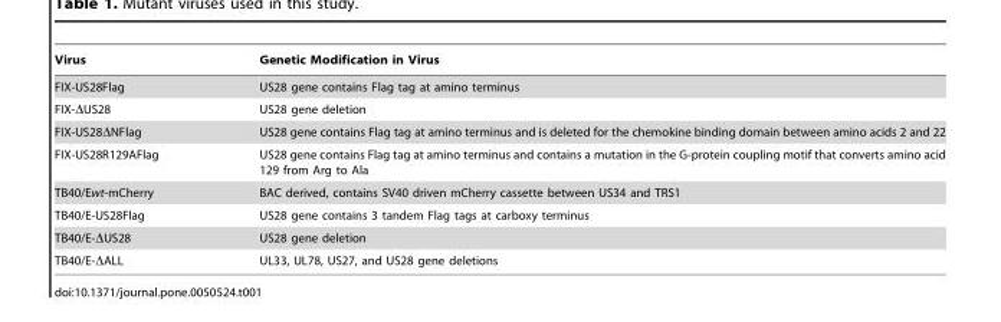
<table><thead><tr><td>Virus</td><td>Genetic Modification in Virus</td></tr></thead><tbody><tr><td>FIX-US28Flag</td><td>US28 gene contains Flag tag at amino terminus</td></tr><tr><td>FIX-ΔUS28</td><td>US28 gene deletion</td></tr><tr><td>FIX-US28ΔNFlag</td><td>US28 gene contains Flag tag at amino terminus and is deleted for the chemokine binding domain between amino acids 2 and 22</td></tr><tr><td>FIX-US28R129AFlag</td><td>US28 gene contains Flag tag at amino terminus and contains a mutation in the G-protein coupling motif that converts amino acid 129 from Arg to Ala</td></tr><tr><td>TB40/Ewt-mCherry</td><td>BAC derived, contains SV40 driven mCherry cassette between US34 and TRS1</td></tr><tr><td>TB40/E-US28Flag</td><td>US28 gene contains 3 tandem Flag tags at carboxy terminus</td></tr><tr><td>TB40/E-ΔUS28</td><td>US28 gene deletion</td></tr><tr><td>TB40/E-ΔALL</td><td>UL33, UL78, US27, and US28 gene deletions</td></tr></tbody></table>